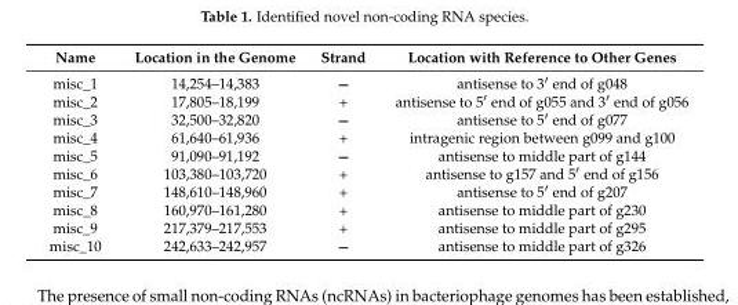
<table><thead><tr><td>Name</td><td>Location in the Genome</td><td>Strand</td><td>Location with Reference to Other Genes</td></tr></thead><tbody><tr><td>misc_1</td><td>14,254–14,383</td><td>−</td><td>antisense to 3′ end of g048</td></tr><tr><td>misc_2</td><td>17,805–18,199</td><td>+</td><td>antisense to 5′ end of g055 and 3′ end of g056</td></tr><tr><td>misc_3</td><td>32,500–32,820</td><td>−</td><td>antisense to 5′ end of g077</td></tr><tr><td>misc_4</td><td>61,640–61,936</td><td>+</td><td>intragenic region between g099 and g100</td></tr><tr><td>misc_5</td><td>91,090–91,192</td><td>−</td><td>antisense to middle part of g144</td></tr><tr><td>misc_6</td><td>103,380–103,720</td><td>+</td><td>antisense to g157 and 5′ end of g156</td></tr><tr><td>misc_7</td><td>148,610–148,960</td><td>+</td><td>antisense to 5′ end of g207</td></tr><tr><td>misc_8</td><td>160,970–161,280</td><td>+</td><td>antisense to middle part of g230</td></tr><tr><td>misc_9</td><td>217,379–217,553</td><td>+</td><td>antisense to middle part of g295</td></tr><tr><td>misc_10</td><td>242,633–242,957</td><td>−</td><td>antisense to middle part of g326</td></tr></tbody></table>